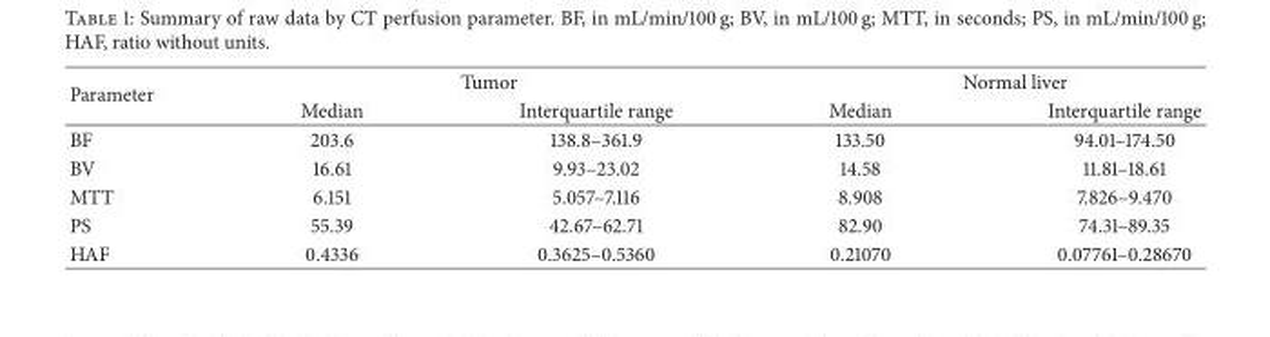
<table><thead><tr><td rowspan="2">Parameter</td><td colspan="2">Tumor</td><td colspan="2">Normal liver</td></tr><tr><td>Median</td><td>Interquartile range</td><td>Median</td><td>Interquartile range</td></tr></thead><tbody><tr><td>BF</td><td>203.6</td><td>138.8–361.9</td><td>133.50</td><td>94.01–174.50</td></tr><tr><td>BV</td><td>16.61</td><td>9.93–23.02</td><td>14.58</td><td>11.81–18.61</td></tr><tr><td>MTT</td><td>6.151</td><td>5.057–7.116</td><td>8.908</td><td>7.826–9.470</td></tr><tr><td>PS</td><td>55.39</td><td>42.67–62.71</td><td>82.90</td><td>74.31–89.35</td></tr><tr><td>HAF</td><td>0.4336</td><td>0.3625–0.5360</td><td>0.21070</td><td>0.07761–0.28670</td></tr></tbody></table>